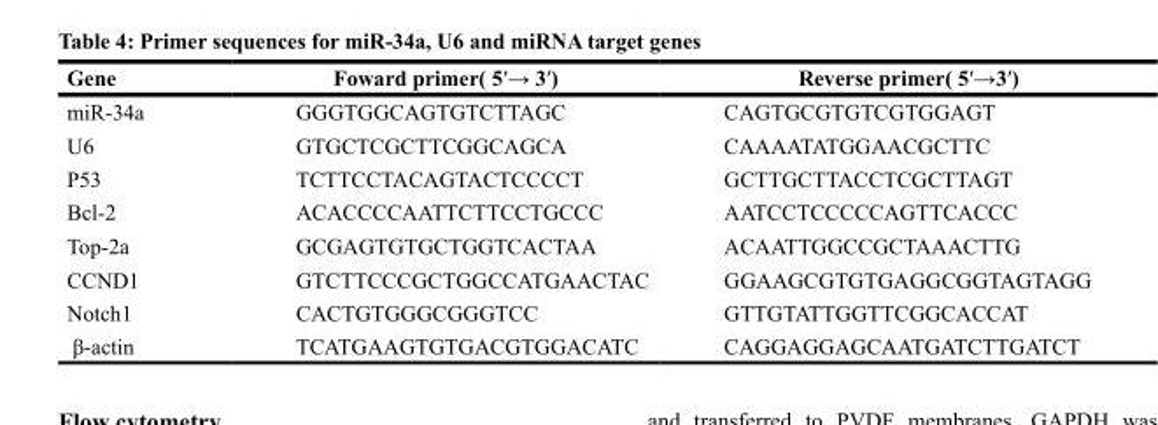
<table><thead><tr><td>Gene</td><td>Foward primer( 5′→ 3′)</td><td>Reverse primer( 5′→3′)</td></tr></thead><tbody><tr><td>miR-34a</td><td>GGGTGGCAGTGTCTTAGC</td><td>CAGTGCGTGTCGTGGAGT</td></tr><tr><td>U6</td><td>GTGCTCGCTTCGGCAGCA</td><td>CAAAATATGGAACGCTTC</td></tr><tr><td>P53</td><td>TCTTCCTACAGTACTCCCCT</td><td>GCTTGCTTACCTCGCTTAGT</td></tr><tr><td>Bcl-2</td><td>ACACCCCAATTCTTCCTGCCC</td><td>AATCCTCCCCCAGTTCACCC</td></tr><tr><td>Top-2a</td><td>GCGAGTGTGCTGGTCACTAA</td><td>ACAATTGGCCGCTAAACTTG</td></tr><tr><td>CCND1</td><td>GTCTTCCCGCTGGCCATGAACTAC</td><td>GGAAGCGTGTGAGGCGGTAGTAGG</td></tr><tr><td>Notch1</td><td>CACTGTGGGCGGGTCC</td><td>GTTGTATTGGTTCGGCACCAT</td></tr><tr><td>β-actin</td><td>TCATGAAGTGTGACGTGGACATC</td><td>CAGGAGGAGCAATGATCTTGATCT</td></tr></tbody></table>